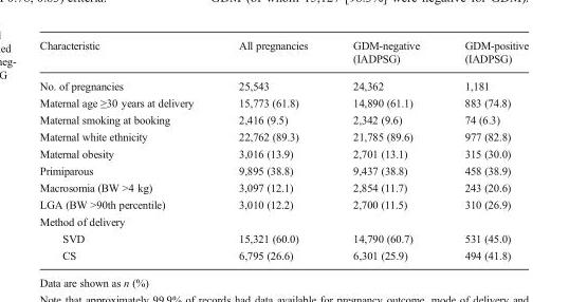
<table><thead><tr><td>Characteristic</td><td>All pregnancies</td><td>GDM-negative (IADPSG)</td><td>GDM-positive (IADPSG)</td></tr></thead><tbody><tr><td>No. of pregnancies</td><td>25,543</td><td>24,362</td><td>1,181</td></tr><tr><td>Maternal age ≥30 years at delivery</td><td>15,773 (61.8)</td><td>14,890 (61.1)</td><td>883 (74.8)</td></tr><tr><td>Maternal smoking at booking</td><td>2,416 (9.5)</td><td>2,342 (9.6)</td><td>74 (6.3)</td></tr><tr><td>Maternal white ethnicity</td><td>22,762 (89.3)</td><td>21,785 (89.6)</td><td>977 (82.8)</td></tr><tr><td>Maternal obesity</td><td>3,016 (13.9)</td><td>2,701 (13.1)</td><td>315 (30.0)</td></tr><tr><td>Primiparous</td><td>9,895 (38.8)</td><td>9,437 (38.8)</td><td>458 (38.9)</td></tr><tr><td>Macrosomia (BW &gt;4 kg)</td><td>3,097 (12.1)</td><td>2,854 (11.7)</td><td>243 (20.6)</td></tr><tr><td>LGA (BW &gt;90th percentile)</td><td>3,010 (12.2)</td><td>2,700 (11.5)</td><td>310 (26.9)</td></tr><tr><td colspan="4">Method of delivery</td></tr><tr><td>SVD</td><td>15,321 (60.0)</td><td>14,790 (60.7)</td><td>531 (45.0)</td></tr><tr><td>CS</td><td>6,795 (26.6)</td><td>6,301 (25.9)</td><td>494 (41.8)</td></tr></tbody></table>